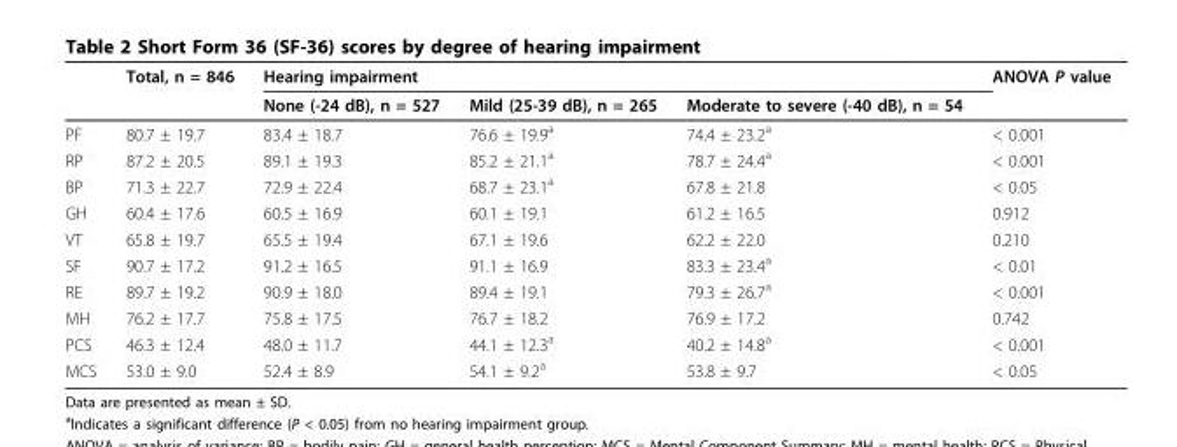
<table><thead><tr><td rowspan="2"></td><td rowspan="2">Total, n = 846</td><td colspan="3">Hearing impairment</td><td rowspan="2">ANOVA P value</td></tr><tr><td>None (-24 dB), n = 527</td><td>Mild (25-39 dB), n = 265</td><td>Moderate to severe (-40 dB), n = 54</td></tr></thead><tbody><tr><td>PF</td><td>80.7 ± 19.7</td><td>83.4 ± 18.7</td><td>76.6 ± 19.9<sup>a</sup></td><td>74.4 ± 23.2<sup>a</sup></td><td>&lt; 0.001</td></tr><tr><td>RP</td><td>87.2 ± 20.5</td><td>89.1 ± 19.3</td><td>85.2 ± 21.1<sup>a</sup></td><td>78.7 ± 24.4<sup>a</sup></td><td>&lt; 0.001</td></tr><tr><td>BP</td><td>71.3 ± 22.7</td><td>72.9 ± 22.4</td><td>68.7 ± 23.1<sup>a</sup></td><td>67.8 ± 21.8</td><td>&lt; 0.05</td></tr><tr><td>GH</td><td>60.4 ± 17.6</td><td>60.5 ± 16.9</td><td>60.1 ± 19.1</td><td>61.2 ± 16.5</td><td>0.912</td></tr><tr><td>VT</td><td>65.8 ± 19.7</td><td>65.5 ± 19.4</td><td>67.1 ± 19.6</td><td>62.2 ± 22.0</td><td>0.210</td></tr><tr><td>SF</td><td>90.7 ± 17.2</td><td>91.2 ± 16.5</td><td>91.1 ± 16.9</td><td>83.3 ± 23.4<sup>a</sup></td><td>&lt; 0.01</td></tr><tr><td>RE</td><td>89.7 ± 19.2</td><td>90.9 ± 18.0</td><td>89.4 ± 19.1</td><td>79.3 ± 26.7<sup>a</sup></td><td>&lt; 0.001</td></tr><tr><td>MH</td><td>76.2 ± 17.7</td><td>75.8 ± 17.5</td><td>76.7 ± 18.2</td><td>76.9 ± 17.2</td><td>0.742</td></tr><tr><td>PCS</td><td>46.3 ± 12.4</td><td>48.0 ± 11.7</td><td>44.1 ± 12.3<sup>a</sup></td><td>40.2 ± 14.8<sup>a</sup></td><td>&lt; 0.001</td></tr><tr><td>MCS</td><td>53.0 ± 9.0</td><td>52.4 ± 8.9</td><td>54.1 ± 9.2<sup>a</sup></td><td>53.8 ± 9.7</td><td>&lt; 0.05</td></tr></tbody></table>